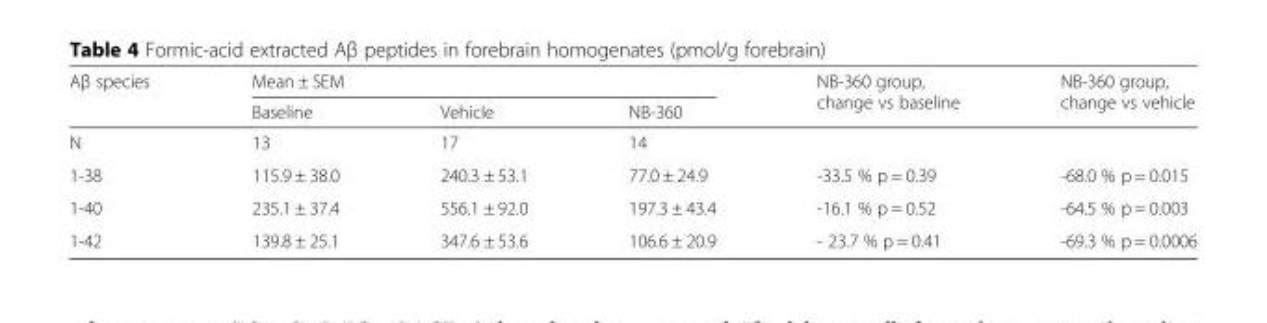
<table><thead><tr><td rowspan="2">Aβ species</td><td colspan="3">Mean ± SEM</td><td rowspan="2">NB-360 group, change vs baseline</td><td rowspan="2">NB-360 group, change vs vehicle</td></tr><tr><td>Baseline</td><td>Vehicle</td><td>NB-360</td></tr></thead><tbody><tr><td>N</td><td>13</td><td>17</td><td>14</td><td></td><td></td></tr><tr><td>1-38</td><td>115.9 ± 38.0</td><td>240.3 ± 53.1</td><td>77.0 ± 24.9</td><td>-33.5 % p = 0.39</td><td>-68.0 % p = 0.015</td></tr><tr><td>1-40</td><td>235.1 ± 37.4</td><td>556.1 ± 92.0</td><td>197.3 ± 43.4</td><td>-16.1 % p = 0.52</td><td>-64.5 % p = 0.003</td></tr><tr><td>1-42</td><td>139.8 ± 25.1</td><td>347.6 ± 53.6</td><td>106.6 ± 20.9</td><td>- 23.7 % p = 0.41</td><td>-69.3 % p = 0.0006</td></tr></tbody></table>